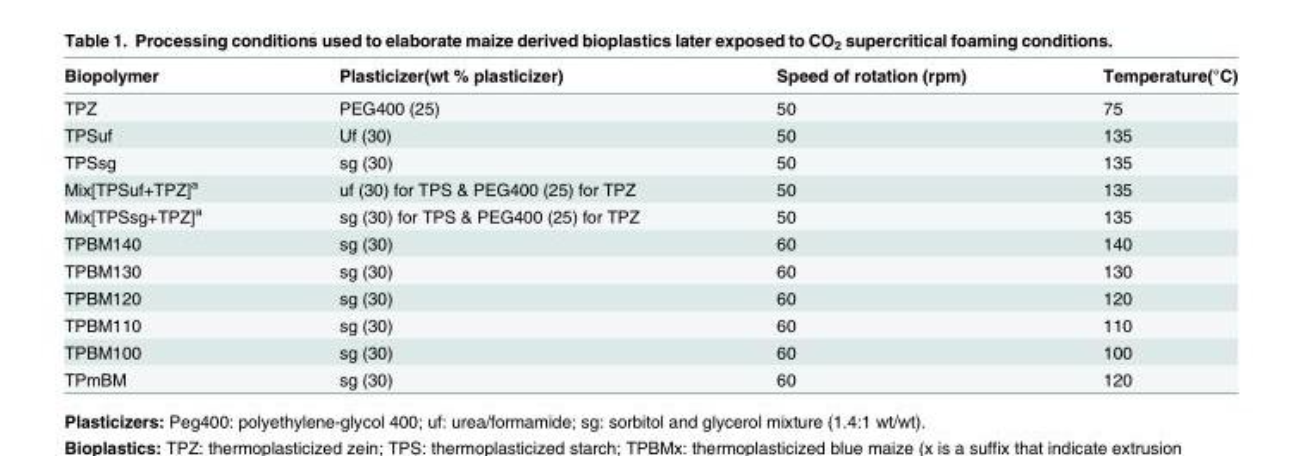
<table><thead><tr><td>Biopolymer</td><td>Plasticizer(wt % plasticizer)</td><td>Speed of rotation (rpm)</td><td>Temperature(°C)</td></tr></thead><tbody><tr><td>TPZ</td><td>PEG400 (25)</td><td>50</td><td>75</td></tr><tr><td>TPSuf</td><td>Uf (30)</td><td>50</td><td>135</td></tr><tr><td>TPSsg</td><td>sg (30)</td><td>50</td><td>135</td></tr><tr><td>Mix[TPSuf+TPZ]<sup>a</sup></td><td>uf (30) for TPS &amp; PEG400 (25) for TPZ</td><td>50</td><td>135</td></tr><tr><td>Mix[TPSsg+TPZ]<sup>a</sup></td><td>sg (30) for TPS &amp; PEG400 (25) for TPZ</td><td>50</td><td>135</td></tr><tr><td>TPBM140</td><td>sg (30)</td><td>60</td><td>140</td></tr><tr><td>TPBM130</td><td>sg (30)</td><td>60</td><td>130</td></tr><tr><td>TPBM120</td><td>sg (30)</td><td>60</td><td>120</td></tr><tr><td>TPBM110</td><td>sg (30)</td><td>60</td><td>110</td></tr><tr><td>TPBM100</td><td>sg (30)</td><td>60</td><td>100</td></tr><tr><td>TPmBM</td><td>sg (30)</td><td>60</td><td>120</td></tr></tbody></table>